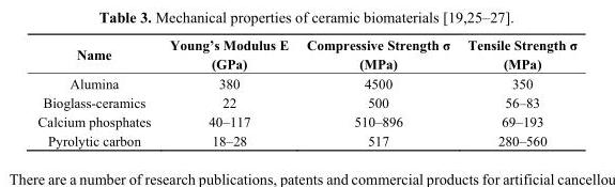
<table><thead><tr><td>Name</td><td>Young’s Modulus E (GPa)</td><td>Compressive Strength σ (MPa)</td><td>Tensile Strength σ (MPa)</td></tr></thead><tbody><tr><td>Alumina</td><td>380</td><td>4500</td><td>350</td></tr><tr><td>Bioglass-ceramics</td><td>22</td><td>500</td><td>56–83</td></tr><tr><td>Calcium phosphates</td><td>40–117</td><td>510–896</td><td>69–193</td></tr><tr><td>Pyrolytic carbon</td><td>18–28</td><td>517</td><td>280–560</td></tr></tbody></table>